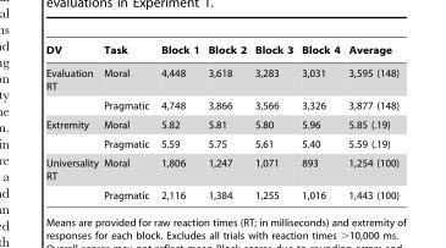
<table><thead><tr><td>DV</td><td>Task</td><td>Block 1</td><td>Block 2</td><td>Block 3</td><td>Block 4</td><td>Average</td></tr></thead><tbody><tr><td rowspan="2">Evaluation RT</td><td>Moral</td><td>4,448</td><td>3,618</td><td>3,283</td><td>3,031</td><td>3,595 (148)</td></tr><tr><td>Pragmatic</td><td>4,748</td><td>3,866</td><td>3,566</td><td>3,326</td><td>3,877 (148)</td></tr><tr><td rowspan="2">Extremity</td><td>Moral</td><td>5.82</td><td>5.81</td><td>5.80</td><td>5.96</td><td>5.85 (.19)</td></tr><tr><td>Pragmatic</td><td>5.59</td><td>5.75</td><td>5.61</td><td>5.40</td><td>5.59 (.19)</td></tr><tr><td rowspan="2">Universality RT</td><td>Moral</td><td>1,806</td><td>1,247</td><td>1,071</td><td>893</td><td>1,254 (100)</td></tr><tr><td>Pragmatic</td><td>2,116</td><td>1,384</td><td>1,255</td><td>1,016</td><td>1,443 (100)</td></tr></tbody></table>